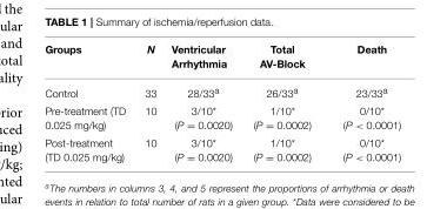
<table><thead><tr><td>Groups</td><td>N</td><td>Ventricular Arrhythmia</td><td>Total AV-Block</td><td>Death</td></tr></thead><tbody><tr><td>Control</td><td>33</td><td>28/33<sup>a</sup></td><td>26/33<sup>a</sup></td><td>23/33<sup>a</sup></td></tr><tr><td>Pre-treatment (TD 0.025 mg/kg)</td><td>10</td><td>3/10* (P = 0.0020)</td><td>1/10* (P = 0.0002)</td><td>0/10* (P &lt; 0.0001)</td></tr><tr><td>Post-treatment (TD 0.025 mg/kg)</td><td>10</td><td>3/10* (P = 0.0020)</td><td>1/10* (P = 0.0002)</td><td>0/10* (P &lt; 0.0001)</td></tr></tbody></table>